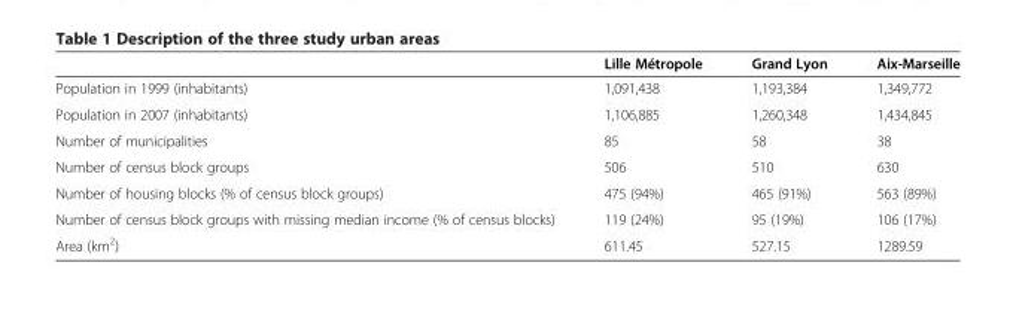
<table><thead><tr><td></td><td>Lille Métropole</td><td>Grand Lyon</td><td>Aix-Marseille</td></tr></thead><tbody><tr><td>Population in 1999 (inhabitants)</td><td>1,091,438</td><td>1,193,384</td><td>1,349,772</td></tr><tr><td>Population in 2007 (inhabitants)</td><td>1,106,885</td><td>1,260,348</td><td>1,434,845</td></tr><tr><td>Number of municipalities</td><td>85</td><td>58</td><td>38</td></tr><tr><td>Number of census block groups</td><td>506</td><td>510</td><td>630</td></tr><tr><td>Number of housing blocks (% of census block groups)</td><td>475 (94%)</td><td>465 (91%)</td><td>563 (89%)</td></tr><tr><td>Number of census block groups with missing median income (% of census blocks)</td><td>119 (24%)</td><td>95 (19%)</td><td>106 (17%)</td></tr><tr><td>Area (km<sup>2</sup>)</td><td>611.45</td><td>527.15</td><td>1289.59</td></tr></tbody></table>